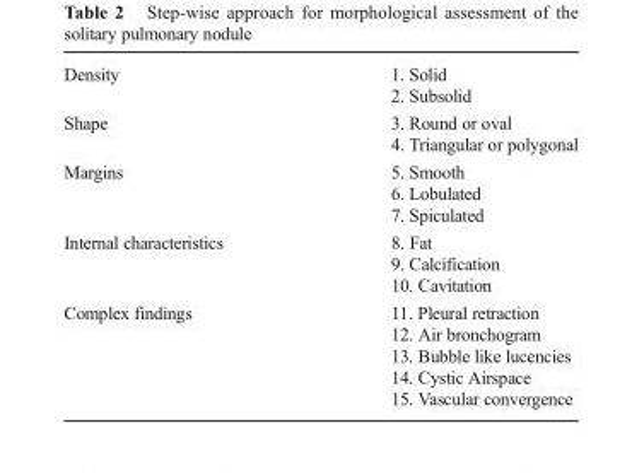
<table><tbody><tr><td>Density</td><td>1. Solid 2. Subsolid</td></tr><tr><td>Shape</td><td>3. Round or oval 4. Triangular or polygonal</td></tr><tr><td>Margins</td><td>5. Smooth 6. Lobulated 7. Spiculated</td></tr><tr><td>Internal characteristics</td><td>8. Fat 9. Calcification 10. Cavitation</td></tr><tr><td>Complex findings</td><td>11. Pleural retraction 12. Air bronchogram 13. Bubble like lucencies 14. Cystic Airspace 15. Vascular convergence</td></tr></tbody></table>